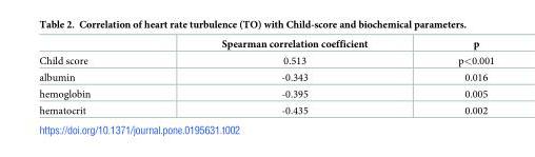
<table><thead><tr><td></td><td>Spearman correlation coefficient</td><td>p</td></tr></thead><tbody><tr><td>Child score</td><td>0.513</td><td>p&lt;0.001</td></tr><tr><td>albumin</td><td>-0.343</td><td>0.016</td></tr><tr><td>hemoglobin</td><td>-0.395</td><td>0.005</td></tr><tr><td>hematocrit</td><td>-0.435</td><td>0.002</td></tr></tbody></table>